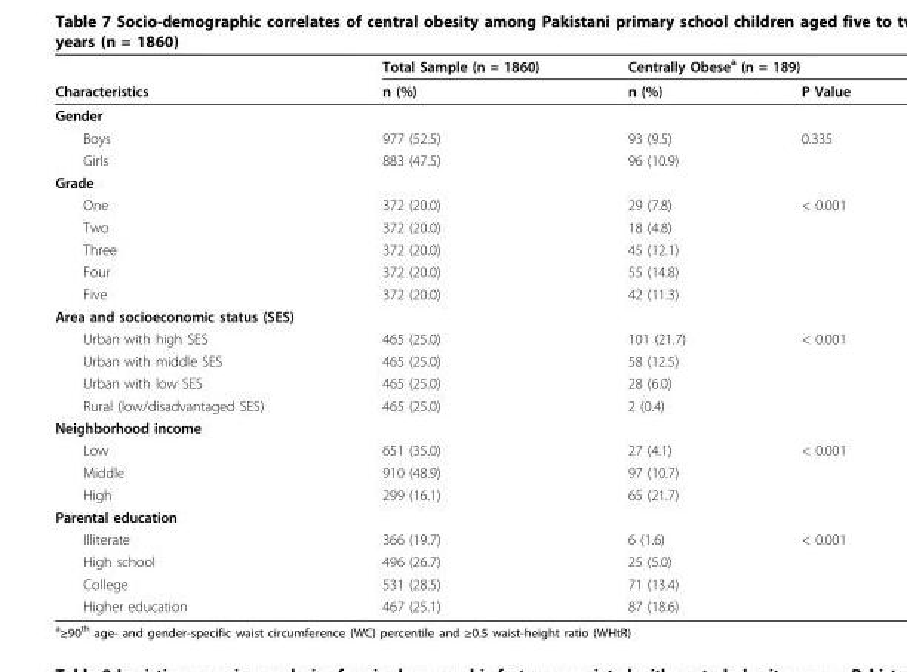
<table><thead><tr><td rowspan="2">Characteristics</td><td rowspan="2">Total Sample (n = 1860) n (%)</td><td colspan="2">Centrally Obese<sup>a</sup> (n = 189)</td></tr><tr><td>n (%)</td><td>P Value</td></tr></thead><tbody><tr><td colspan="4">Gender</td></tr><tr><td>Boys</td><td>977 (52.5)</td><td>93 (9.5)</td><td>0.335</td></tr><tr><td>Girls</td><td>883 (47.5)</td><td>96 (10.9)</td><td></td></tr><tr><td colspan="4">Grade</td></tr><tr><td>One</td><td>372 (20.0)</td><td>29 (7.8)</td><td>&lt; 0.001</td></tr><tr><td>Two</td><td>372 (20.0)</td><td>18 (4.8)</td><td></td></tr><tr><td>Three</td><td>372 (20.0)</td><td>45 (12.1)</td><td></td></tr><tr><td>Four</td><td>372 (20.0)</td><td>55 (14.8)</td><td></td></tr><tr><td>Five</td><td>372 (20.0)</td><td>42 (11.3)</td><td></td></tr><tr><td colspan="4">Area and socioeconomic status (SES)</td></tr><tr><td>Urban with high SES</td><td>465 (25.0)</td><td>101 (21.7)</td><td>&lt; 0.001</td></tr><tr><td>Urban with middle SES</td><td>465 (25.0)</td><td>58 (12.5)</td><td></td></tr><tr><td>Urban with low SES</td><td>465 (25.0)</td><td>28 (6.0)</td><td></td></tr><tr><td>Rural (low/disadvantaged SES)</td><td>465 (25.0)</td><td>2 (0.4)</td><td></td></tr><tr><td colspan="4">Neighborhood income</td></tr><tr><td>Low</td><td>651 (35.0)</td><td>27 (4.1)</td><td>&lt; 0.001</td></tr><tr><td>Middle</td><td>910 (48.9)</td><td>97 (10.7)</td><td></td></tr><tr><td>High</td><td>299 (16.1)</td><td>65 (21.7)</td><td></td></tr><tr><td colspan="4">Parental education</td></tr><tr><td>Illiterate</td><td>366 (19.7)</td><td>6 (1.6)</td><td>&lt; 0.001</td></tr><tr><td>High school</td><td>496 (26.7)</td><td>25 (5.0)</td><td></td></tr><tr><td>College</td><td>531 (28.5)</td><td>71 (13.4)</td><td></td></tr><tr><td>Higher education</td><td>467 (25.1)</td><td>87 (18.6)</td><td></td></tr></tbody></table>